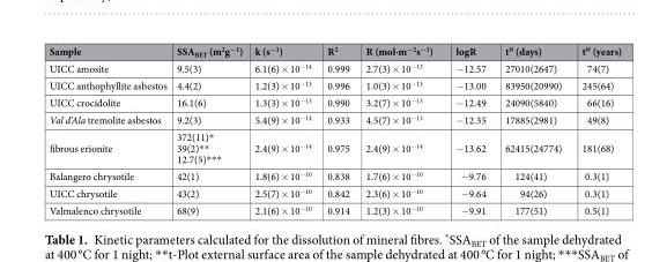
<table><thead><tr><td>Sample</td><td>SSA<sub>BET</sub> (m<sup>2</sup>g<sup>−1</sup>)</td><td>k (s<sup>−1</sup>)</td><td>R<sup>2</sup></td><td>R (mol·m<sup>−2</sup>s<sup>−1</sup>)</td><td>logR</td><td>t<sup>ℵ</sup> (days)</td><td>t<sup>ℵ</sup> (years)</td></tr></thead><tbody><tr><td>UICC amosite</td><td>9.5(3)</td><td>6.1(6) × 10<sup>−14</sup></td><td>0.999</td><td>2.7(3) × 10<sup>−13</sup></td><td>−12.57</td><td>27010(2647)</td><td>74(7)</td></tr><tr><td>UICC anthophyllite asbestos</td><td>4.4(2)</td><td>1.2(3) × 10<sup>−13</sup></td><td>0.996</td><td>1.0(3) × 10<sup>−13</sup></td><td>−13.00</td><td>83950(20990)</td><td>245(64)</td></tr><tr><td>UICC crocidolite</td><td>16.1(6)</td><td>1.3(3) × 10<sup>−13</sup></td><td>0.990</td><td>3.2(7) × 10<sup>−13</sup></td><td>−12.49</td><td>24090(5840)</td><td>66(16)</td></tr><tr><td>Val d’Ala tremolite asbestos</td><td>9.2(3)</td><td>5.4(9) × 10<sup>−14</sup></td><td>0.933</td><td>4.5(7) × 10<sup>−13</sup></td><td>−12.35</td><td>17885(2981)</td><td>49(8)</td></tr><tr><td>fibrous erionite</td><td>372(11)* 39(2)** 12.7(5)***</td><td>2.4(9) × 10<sup>−14</sup></td><td>0.975</td><td>2.4(9) × 10<sup>−14</sup></td><td>−13.62</td><td>62415(24774)</td><td>181(68)</td></tr><tr><td>Balangero chrysotile</td><td>42(1)</td><td>1.8(6) × 10<sup>−10</sup></td><td>0.838</td><td>1.7(6) × 10<sup>−10</sup></td><td>−9.76</td><td>124(41)</td><td>0.3(1)</td></tr><tr><td>UICC chrysotile</td><td>43(2)</td><td>2.5(7) × 10<sup>−10</sup></td><td>0.842</td><td>2.3(6) × 10<sup>−10</sup></td><td>−9.64</td><td>94(26)</td><td>0.3(1)</td></tr><tr><td>Valmalenco chrysotile</td><td>68(9)</td><td>2.1(6) × 10<sup>−10</sup></td><td>0.914</td><td>1.2(3) × 10<sup>−10</sup></td><td>−9.91</td><td>177(51)</td><td>0.5(1)</td></tr></tbody></table>